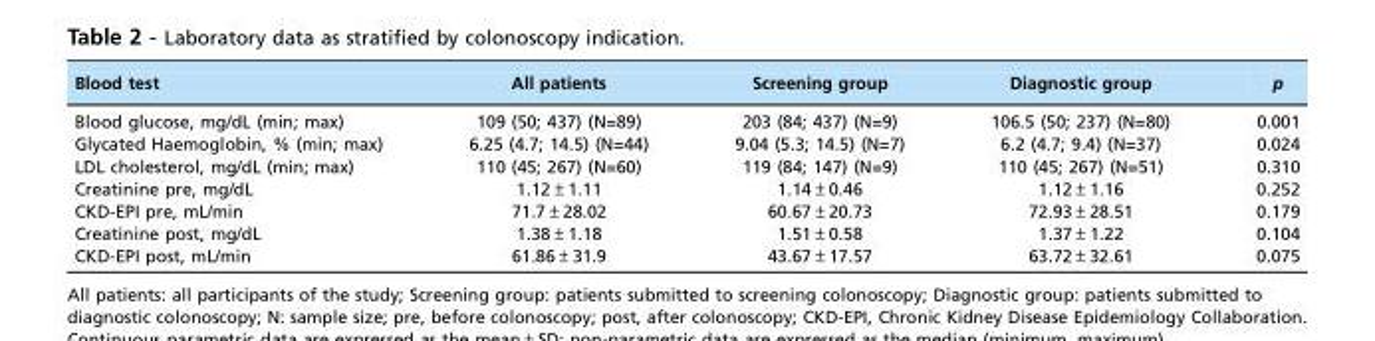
<table><thead><tr><td>Blood test</td><td>All patients</td><td>Screening group</td><td>Diagnostic group</td><td>p</td></tr></thead><tbody><tr><td>Blood glucose, mg/dL (min; max)</td><td>109 (50; 437) (N=89)</td><td>203 (84; 437) (N=9)</td><td>106.5 (50; 237) (N=80)</td><td>0.001</td></tr><tr><td>Glycated Haemoglobin, % (min; max)</td><td>6.25 (4.7; 14.5) (N=44)</td><td>9.04 (5.3; 14.5) (N=7)</td><td>6.2 (4.7; 9.4) (N=37)</td><td>0.024</td></tr><tr><td>LDL cholesterol, mg/dL (min; max)</td><td>110 (45; 267) (N=60)</td><td>119 (84; 147) (N=9)</td><td>110 (45; 267) (N=51)</td><td>0.310</td></tr><tr><td>Creatinine pre, mg/dL</td><td>1.12±1.11</td><td>1.14±0.46</td><td>1.12±1.16</td><td>0.252</td></tr><tr><td>CKD-EPI pre, mL/min</td><td>71.7±28.02</td><td>60.67±20.73</td><td>72.93±28.51</td><td>0.179</td></tr><tr><td>Creatinine post, mg/dL</td><td>1.38±1.18</td><td>1.51±0.58</td><td>1.37±1.22</td><td>0.104</td></tr><tr><td>CKD-EPI post, mL/min</td><td>61.86±31.9</td><td>43.67±17.57</td><td>63.72±32.61</td><td>0.075</td></tr></tbody></table>